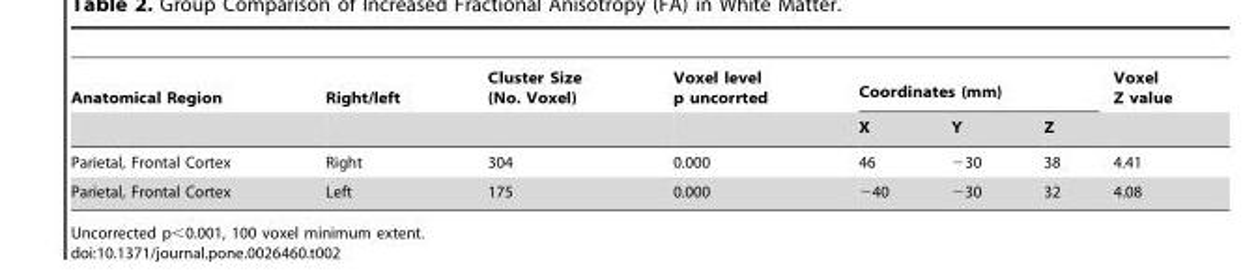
<table><thead><tr><td rowspan="2">Anatomical Region</td><td rowspan="2">Right/left</td><td rowspan="2">Cluster Size (No. Voxel)</td><td rowspan="2">Voxel level p uncorrted</td><td colspan="3">Coordinates (mm)</td><td rowspan="2">Voxel Z value</td></tr><tr><td>X</td><td>Y</td><td>Z</td></tr></thead><tbody><tr><td>Parietal, Frontal Cortex</td><td>Right</td><td>304</td><td>0.000</td><td>46</td><td>−30</td><td>38</td><td>4.41</td></tr><tr><td>Parietal, Frontal Cortex</td><td>Left</td><td>175</td><td>0.000</td><td>−40</td><td>−30</td><td>32</td><td>4.08</td></tr></tbody></table>